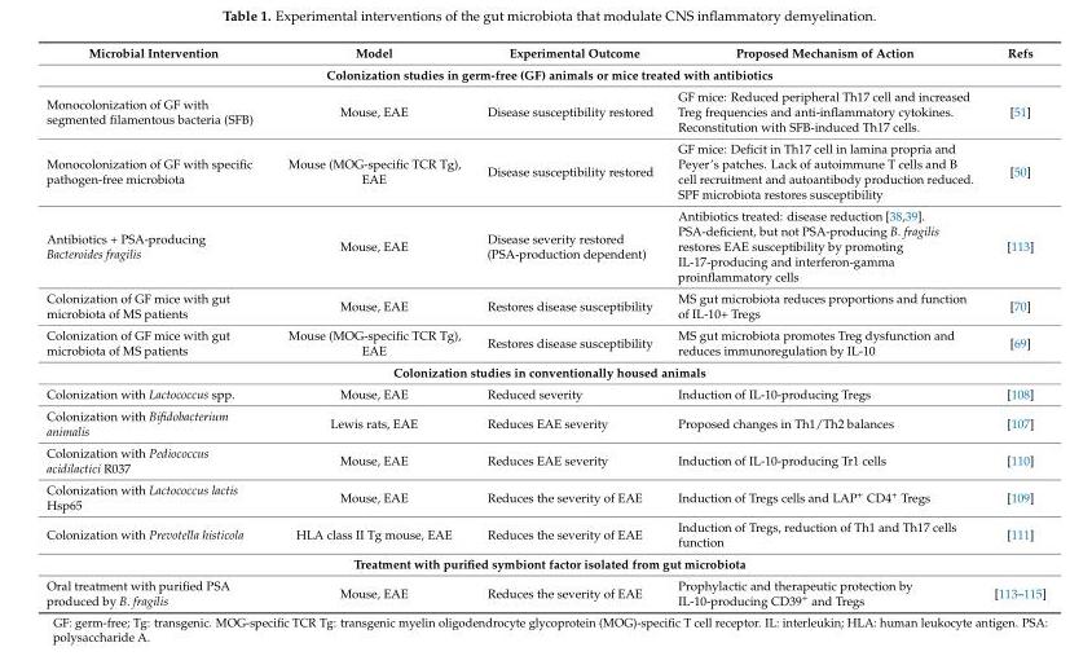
<table><thead><tr><td>Microbial Intervention</td><td>Model</td><td>Experimental Outcome</td><td>Proposed Mechanism of Action</td><td>Refs</td></tr></thead><tbody><tr><td colspan="5">Colonization studies in germ-free (GF) animals or mice treated with antibiotics</td></tr><tr><td>Monocolonization of GF with segmented filamentous bacteria (SFB)</td><td>Mouse, EAE</td><td>Disease susceptibility restored</td><td>GF mice: Reduced peripheral Th17 cell and increased Treg frequencies and anti-inflammatory cytokines. Reconstitution with SFB-induced Th17 cells.</td><td>[51]</td></tr><tr><td>Monocolonization of GF with specific pathogen-free microbiota</td><td>Mouse (MOG-specific TCR Tg), EAE</td><td>Disease susceptibility restored</td><td>GF mice: Deficit in Th17 cell in lamina propria and Peyer’s patches. Lack of autoimmune T cells and B cell recruitment and autoantibody production reduced. SPF microbiota restores susceptibility</td><td>[50]</td></tr><tr><td>Antibiotics + PSA-producing Bacteroides fragilis</td><td>Mouse, EAE</td><td>Disease severity restored (PSA-production dependent)</td><td>Antibiotics treated: disease reduction [38,39]. PSA-deficient, but not PSA-producing B. fragilis restores EAE susceptibility by promoting IL-17-producing and interferon-gamma proinflammatory cells</td><td>[113]</td></tr><tr><td>Colonization of GF mice with gut microbiota of MS patients</td><td>Mouse, EAE</td><td>Restores disease susceptibility</td><td>MS gut microbiota reduces proportions and function of IL-10+ Tregs</td><td>[70]</td></tr><tr><td>Colonization of GF mice with gut microbiota of MS patients</td><td>Mouse (MOG-specific TCR Tg), EAE</td><td>Restores disease susceptibility</td><td>MS gut microbiota promotes Treg dysfunction and reduces immunoregulation by IL-10</td><td>[69]</td></tr><tr><td colspan="5">Colonization studies in conventionally housed animals</td></tr><tr><td>Colonization with Lactococcus spp.</td><td>Mouse, EAE</td><td>Reduced severity</td><td>Induction of IL-10-producing Tregs</td><td>[108]</td></tr><tr><td>Colonization with Bifidobacterium animalis</td><td>Lewis rats, EAE</td><td>Reduces EAE severity</td><td>Proposed changes in Th1/Th2 balances</td><td>[107]</td></tr><tr><td>Colonization with Pediococcus acidilactici R037</td><td>Mouse, EAE</td><td>Reduces EAE severity</td><td>Induction of IL-10-producing Tr1 cells</td><td>[110]</td></tr><tr><td>Colonization with Lactococcus lactis Hsp65</td><td>Mouse, EAE</td><td>Reduces the severity of EAE</td><td>Induction of Tregs cells and LAP<sup>+</sup> CD4<sup>+</sup> Tregs</td><td>[109]</td></tr><tr><td>Colonization with Prevotella histicola</td><td>HLA class II Tg mouse, EAE</td><td>Reduces the severity of EAE</td><td>Induction of Tregs, reduction of Th1 and Th17 cells function</td><td>[111]</td></tr><tr><td colspan="5">Treatment with purified symbiont factor isolated from gut microbiota</td></tr><tr><td>Oral treatment with purified PSA produced by B. fragilis</td><td>Mouse, EAE</td><td>Reduces the severity of EAE</td><td>Prophylactic and therapeutic protection by IL-10-producing CD39<sup>+</sup> and Tregs</td><td>[113–115]</td></tr></tbody></table>